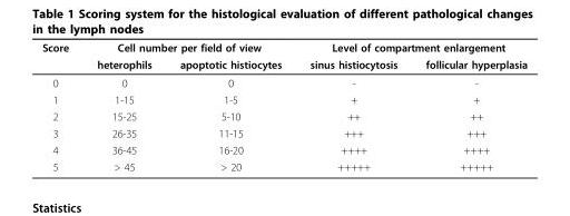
<table><thead><tr><td rowspan="2">Score</td><td colspan="2">Cell number per field of view</td><td colspan="2">Level of compartment enlargement</td></tr><tr><td>heterophils</td><td>apoptotic histiocytes</td><td>sinus histiocytosis</td><td>follicular hyperplasia</td></tr></thead><tbody><tr><td>0</td><td>0</td><td>0</td><td>-</td><td>-</td></tr><tr><td>1</td><td>1-15</td><td>1-5</td><td>+</td><td>+</td></tr><tr><td>2</td><td>15-25</td><td>5-10</td><td>++</td><td>++</td></tr><tr><td>3</td><td>26-35</td><td>11-15</td><td>+++</td><td>+++</td></tr><tr><td>4</td><td>36-45</td><td>16-20</td><td>++++</td><td>++++</td></tr><tr><td>5</td><td>&gt; 45</td><td>&gt; 20</td><td>+++++</td><td>+++++</td></tr></tbody></table>